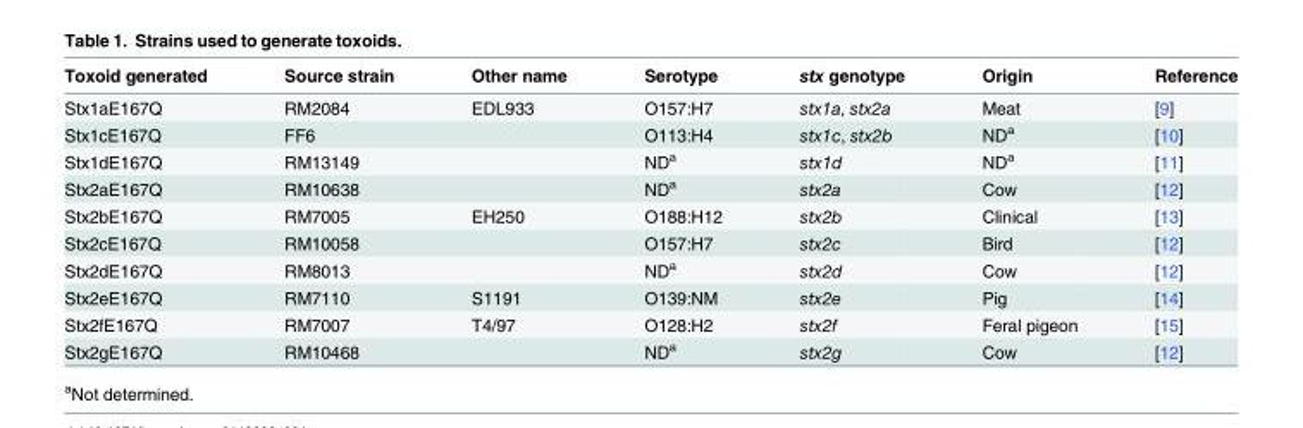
<table><thead><tr><td>Toxoid generated</td><td>Source strain</td><td>Other name</td><td>Serotype</td><td>stx genotype</td><td>Origin</td><td>Reference</td></tr></thead><tbody><tr><td>Stx1aE167Q</td><td>RM2084</td><td>EDL933</td><td>O157:H7</td><td>stx1a, stx2a</td><td>Meat</td><td>[9]</td></tr><tr><td>Stx1cE167Q</td><td>FF6</td><td></td><td>O113:H4</td><td>stx1c, stx2b</td><td>ND<sup>a</sup></td><td>[10]</td></tr><tr><td>Stx1dE167Q</td><td>RM13149</td><td></td><td>ND<sup>a</sup></td><td>stx1d</td><td>ND<sup>a</sup></td><td>[11]</td></tr><tr><td>Stx2aE167Q</td><td>RM10638</td><td></td><td>ND<sup>a</sup></td><td>stx2a</td><td>Cow</td><td>[12]</td></tr><tr><td>Stx2bE167Q</td><td>RM7005</td><td>EH250</td><td>O188:H12</td><td>stx2b</td><td>Clinical</td><td>[13]</td></tr><tr><td>Stx2cE167Q</td><td>RM10058</td><td></td><td>O157:H7</td><td>stx2c</td><td>Bird</td><td>[12]</td></tr><tr><td>Stx2dE167Q</td><td>RM8013</td><td></td><td>ND<sup>a</sup></td><td>stx2d</td><td>Cow</td><td>[12]</td></tr><tr><td>Stx2eE167Q</td><td>RM7110</td><td>S1191</td><td>O139:NM</td><td>stx2e</td><td>Pig</td><td>[14]</td></tr><tr><td>Stx2fE167Q</td><td>RM7007</td><td>T4/97</td><td>O128:H2</td><td>stx2f</td><td>Feral pigeon</td><td>[15]</td></tr><tr><td>Stx2gE167Q</td><td>RM10468</td><td></td><td>ND<sup>a</sup></td><td>stx2g</td><td>Cow</td><td>[12]</td></tr></tbody></table>